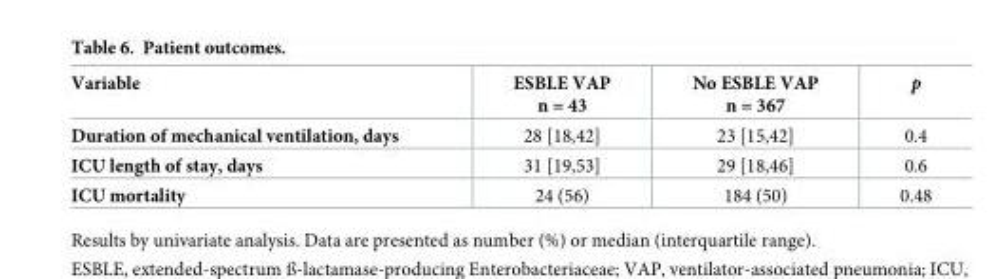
<table><thead><tr><td>Variable</td><td>ESBLE VAP n = 43</td><td>No ESBLE VAP n = 367</td><td>p</td></tr></thead><tbody><tr><td>Duration of mechanical ventilation, days</td><td>28 [18,42]</td><td>23 [15,42]</td><td>0.4</td></tr><tr><td>ICU length of stay, days</td><td>31 [19,53]</td><td>29 [18,46]</td><td>0.6</td></tr><tr><td>ICU mortality</td><td>24 (56)</td><td>184 (50)</td><td>0.48</td></tr></tbody></table>